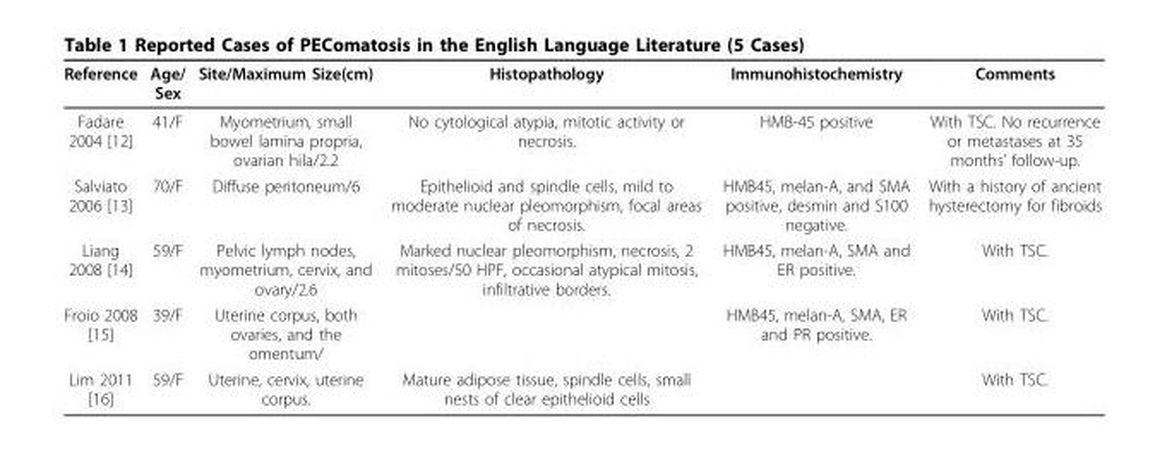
<table><thead><tr><td>Reference</td><td>Age/ Sex</td><td>Site/Maximum Size(cm)</td><td>Histopathology</td><td>Immunohistochemistry</td><td>Comments</td></tr></thead><tbody><tr><td>Fadare 2004 [12]</td><td>41/F</td><td>Myometrium, small bowel lamina propria, ovarian hila/2.2</td><td>No cytological atypia, mitotic activity or necrosis.</td><td>HMB-45 positive</td><td>With TSC. No recurrence or metastases at 35 months’ follow-up.</td></tr><tr><td>Salviato 2006 [13]</td><td>70/F</td><td>Diffuse peritoneum/6</td><td>Epithelioid and spindle cells, mild to moderate nuclear pleomorphism, focal areas of necrosis.</td><td>HMB45, melan-A, and SMA positive, desmin and S100 negative.</td><td>With a history of ancient hysterectomy for fibroids</td></tr><tr><td>Liang 2008 [14]</td><td>59/F</td><td>Pelvic lymph nodes, myometrium, cervix, and ovary/2.6</td><td>Marked nuclear pleomorphism, necrosis, 2 mitoses/50 HPF, occasional atypical mitosis, infiltrative borders.</td><td>HMB45, melan-A, SMA and ER positive.</td><td>With TSC.</td></tr><tr><td>Froio 2008 [15]</td><td>39/F</td><td>Uterine corpus, both ovaries, and the omentum/</td><td></td><td>HMB45, melan-A, SMA, ER and PR positive.</td><td>With TSC.</td></tr><tr><td>Lim 2011 [16]</td><td>59/F</td><td>Uterine, cervix, uterine corpus.</td><td>Mature adipose tissue, spindle cells, small nests of clear epithelioid cells</td><td></td><td>With TSC.</td></tr></tbody></table>